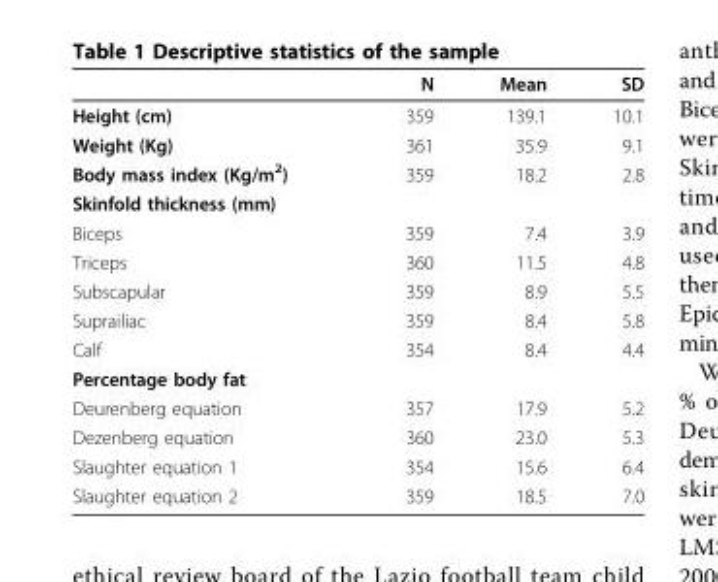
<table><thead><tr><td></td><td>N</td><td>Mean</td><td>SD</td></tr></thead><tbody><tr><td>Height (cm)</td><td>359</td><td>139.1</td><td>10.1</td></tr><tr><td>Weight (Kg)</td><td>361</td><td>35.9</td><td>9.1</td></tr><tr><td>Body mass index (Kg/m<sup>2</sup>)</td><td>359</td><td>18.2</td><td>2.8</td></tr><tr><td colspan="4">Skinfold thickness (mm)</td></tr><tr><td>Biceps</td><td>359</td><td>7.4</td><td>3.9</td></tr><tr><td>Triceps</td><td>360</td><td>11.5</td><td>4.8</td></tr><tr><td>Subscapular</td><td>359</td><td>8.9</td><td>5.5</td></tr><tr><td>Suprailiac</td><td>359</td><td>8.4</td><td>5.8</td></tr><tr><td>Calf</td><td>354</td><td>8.4</td><td>4.4</td></tr><tr><td colspan="4">Percentage body fat</td></tr><tr><td>Deurenberg equation</td><td>357</td><td>17.9</td><td>5.2</td></tr><tr><td>Dezenberg equation</td><td>360</td><td>23.0</td><td>5.3</td></tr><tr><td>Slaughter equation 1</td><td>354</td><td>15.6</td><td>6.4</td></tr><tr><td>Slaughter equation 2</td><td>359</td><td>18.5</td><td>7.0</td></tr></tbody></table>